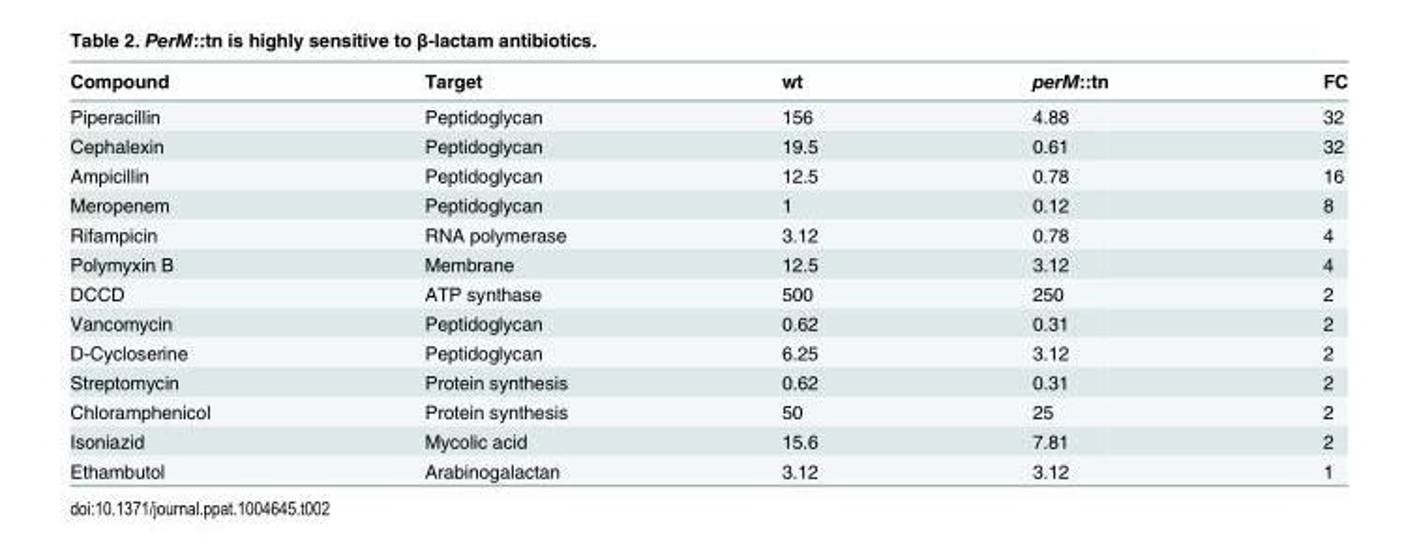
<table><thead><tr><td>Compound</td><td>Target</td><td>wt</td><td>perM::tn</td><td>FC</td></tr></thead><tbody><tr><td>Piperacillin</td><td>Peptidoglycan</td><td>156</td><td>4.88</td><td>32</td></tr><tr><td>Cephalexin</td><td>Peptidoglycan</td><td>19.5</td><td>0.61</td><td>32</td></tr><tr><td>Ampicillin</td><td>Peptidoglycan</td><td>12.5</td><td>0.78</td><td>16</td></tr><tr><td>Meropenem</td><td>Peptidoglycan</td><td>1</td><td>0.12</td><td>8</td></tr><tr><td>Rifampicin</td><td>RNA polymerase</td><td>3.12</td><td>0.78</td><td>4</td></tr><tr><td>Polymyxin B</td><td>Membrane</td><td>12.5</td><td>3.12</td><td>4</td></tr><tr><td>DCCD</td><td>ATP synthase</td><td>500</td><td>250</td><td>2</td></tr><tr><td>Vancomycin</td><td>Peptidoglycan</td><td>0.62</td><td>0.31</td><td>2</td></tr><tr><td>D-Cycloserine</td><td>Peptidoglycan</td><td>6.25</td><td>3.12</td><td>2</td></tr><tr><td>Streptomycin</td><td>Protein synthesis</td><td>0.62</td><td>0.31</td><td>2</td></tr><tr><td>Chloramphenicol</td><td>Protein synthesis</td><td>50</td><td>25</td><td>2</td></tr><tr><td>Isoniazid</td><td>Mycolic acid</td><td>15.6</td><td>7.81</td><td>2</td></tr><tr><td>Ethambutol</td><td>Arabinogalactan</td><td>3.12</td><td>3.12</td><td>1</td></tr></tbody></table>